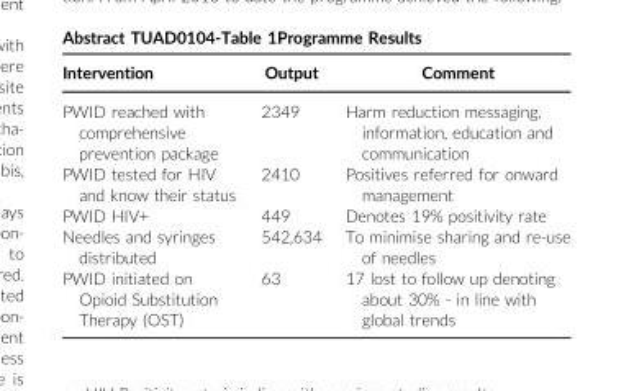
<table><thead><tr><td>Intervention</td><td>Output</td><td>Comment</td></tr></thead><tbody><tr><td>PWID reached with comprehensive prevention package</td><td>2349</td><td>Harm reduction messaging, information, education and communication</td></tr><tr><td>PWID tested for HIV and know their status</td><td>2410</td><td>Positives referred for onward management</td></tr><tr><td>PWID HIV+</td><td>449</td><td>Denotes 19% positivity rate</td></tr><tr><td>Needles and syringes distributed</td><td>542,634</td><td>To minimise sharing and re-use of needles</td></tr><tr><td>PWID initiated on Opioid Substitution Therapy (OST)</td><td>63</td><td>17 lost to follow up denoting about 30% - in line with global trends</td></tr></tbody></table>